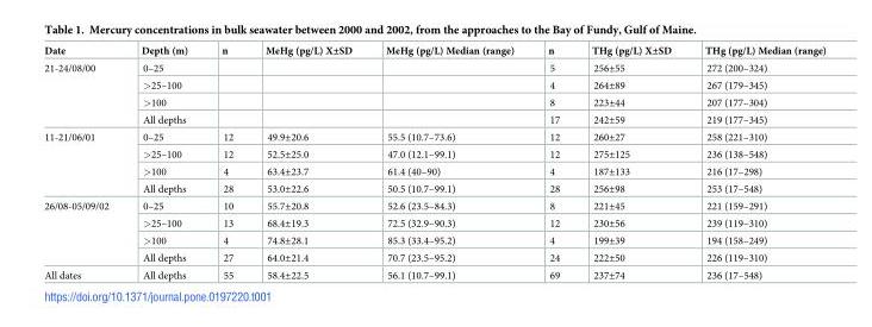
<table><thead><tr><td>Date</td><td>Depth (m)</td><td>n</td><td>MeHg (pg/L) X±SD</td><td>MeHg (pg/L) Median (range)</td><td>n</td><td>THg (pg/L) X±SD</td><td>THg (pg/L) Median (range)</td></tr></thead><tbody><tr><td rowspan="4">21-24/08/00</td><td>0–25</td><td></td><td></td><td></td><td>5</td><td>256±55</td><td>272 (200–324)</td></tr><tr><td>&gt;25–100</td><td></td><td></td><td></td><td>4</td><td>264±89</td><td>267 (179–345)</td></tr><tr><td>&gt;100</td><td></td><td></td><td></td><td>8</td><td>223±44</td><td>207 (177–304)</td></tr><tr><td>All depths</td><td></td><td></td><td></td><td>17</td><td>242±59</td><td>219 (177–345)</td></tr><tr><td rowspan="4">11-21/06/01</td><td>0–25</td><td>12</td><td>49.9±20.6</td><td>55.5 (10.7–73.6)</td><td>12</td><td>260±27</td><td>258 (221–310)</td></tr><tr><td>&gt;25–100</td><td>12</td><td>52.5±25.0</td><td>47.0 (12.1–99.1)</td><td>12</td><td>275±125</td><td>236 (138–548)</td></tr><tr><td>&gt;100</td><td>4</td><td>63.4±23.7</td><td>61.4 (40–90)</td><td>4</td><td>187±133</td><td>216 (17–298)</td></tr><tr><td>All depths</td><td>28</td><td>53.0±22.6</td><td>50.5 (10.7–99.1)</td><td>28</td><td>256±98</td><td>253 (17–548)</td></tr><tr><td rowspan="4">26/08-05/09/02</td><td>0–25</td><td>10</td><td>55.7±20.8</td><td>52.6 (23.5–84.3)</td><td>8</td><td>221±45</td><td>221 (159–291)</td></tr><tr><td>&gt;25–100</td><td>13</td><td>68.4±19.3</td><td>72.5 (32.9–90.3)</td><td>12</td><td>230±56</td><td>239 (119–310)</td></tr><tr><td>&gt;100</td><td>4</td><td>74.8±28.1</td><td>85.3 (33.4–95.2)</td><td>4</td><td>199±39</td><td>194 (158–249)</td></tr><tr><td>All depths</td><td>27</td><td>64.0±21.4</td><td>70.7 (23.5–95.2)</td><td>24</td><td>222±50</td><td>226 (119–310)</td></tr><tr><td>All dates</td><td>All depths</td><td>55</td><td>58.4±22.5</td><td>56.1 (10.7–99.1)</td><td>69</td><td>237±74</td><td>236 (17–548)</td></tr></tbody></table>